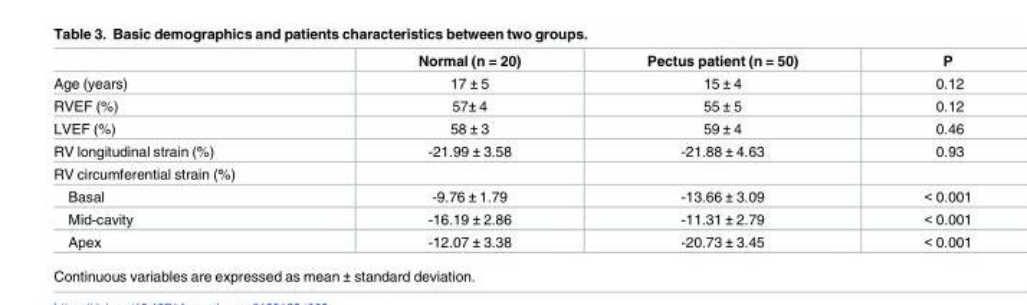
<table><thead><tr><td></td><td>Normal (n = 20)</td><td>Pectus patient (n = 50)</td><td>P</td></tr></thead><tbody><tr><td>Age (years)</td><td>17 ± 5</td><td>15 ± 4</td><td>0.12</td></tr><tr><td>RVEF (%)</td><td>57± 4</td><td>55 ± 5</td><td>0.12</td></tr><tr><td>LVEF (%)</td><td>58 ± 3</td><td>59 ± 4</td><td>0.46</td></tr><tr><td>RV longitudinal strain (%)</td><td>-21.99 ± 3.58</td><td>-21.88 ± 4.63</td><td>0.93</td></tr><tr><td colspan="4">RV circumferential strain (%)</td></tr><tr><td>Basal</td><td>-9.76 ± 1.79</td><td>-13.66 ± 3.09</td><td>&lt; 0.001</td></tr><tr><td>Mid-cavity</td><td>-16.19 ± 2.86</td><td>-11.31 ± 2.79</td><td>&lt; 0.001</td></tr><tr><td>Apex</td><td>-12.07 ± 3.38</td><td>-20.73 ± 3.45</td><td>&lt; 0.001</td></tr></tbody></table>